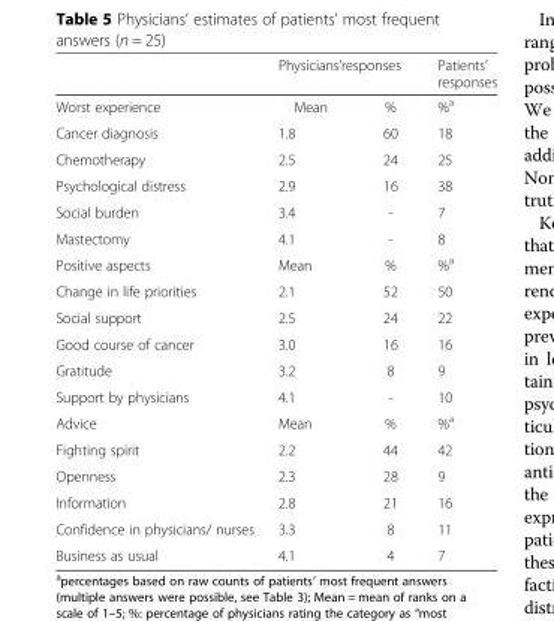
<table><thead><tr><td rowspan="2">Worst experience</td><td colspan="2">Physicians’responses</td><td rowspan="2">Patients’ responses %<sup>a</sup></td></tr><tr><td>Mean</td><td>%</td></tr></thead><tbody><tr><td>Cancer diagnosis</td><td>1.8</td><td>60</td><td>18</td></tr><tr><td>Chemotherapy</td><td>2.5</td><td>24</td><td>25</td></tr><tr><td>Psychological distress</td><td>2.9</td><td>16</td><td>38</td></tr><tr><td>Social burden</td><td>3.4</td><td>-</td><td>7</td></tr><tr><td>Mastectomy</td><td>4.1</td><td>-</td><td>8</td></tr><tr><td>Positive aspects</td><td>Mean</td><td>%</td><td>%<sup>a</sup></td></tr><tr><td>Change in life priorities</td><td>2.1</td><td>52</td><td>50</td></tr><tr><td>Social support</td><td>2.5</td><td>24</td><td>22</td></tr><tr><td>Good course of cancer</td><td>3.0</td><td>16</td><td>16</td></tr><tr><td>Gratitude</td><td>3.2</td><td>8</td><td>9</td></tr><tr><td>Support by physicians</td><td>4.1</td><td>-</td><td>10</td></tr><tr><td>Advice</td><td>Mean</td><td>%</td><td>%<sup>a</sup></td></tr><tr><td>Fighting spirit</td><td>2.2</td><td>44</td><td>42</td></tr><tr><td>Openness</td><td>2.3</td><td>28</td><td>9</td></tr><tr><td>Information</td><td>2.8</td><td>21</td><td>16</td></tr><tr><td>Confidence in physicians/ nurses</td><td>3.3</td><td>8</td><td>11</td></tr><tr><td>Business as usual</td><td>4.1</td><td>4</td><td>7</td></tr></tbody></table>